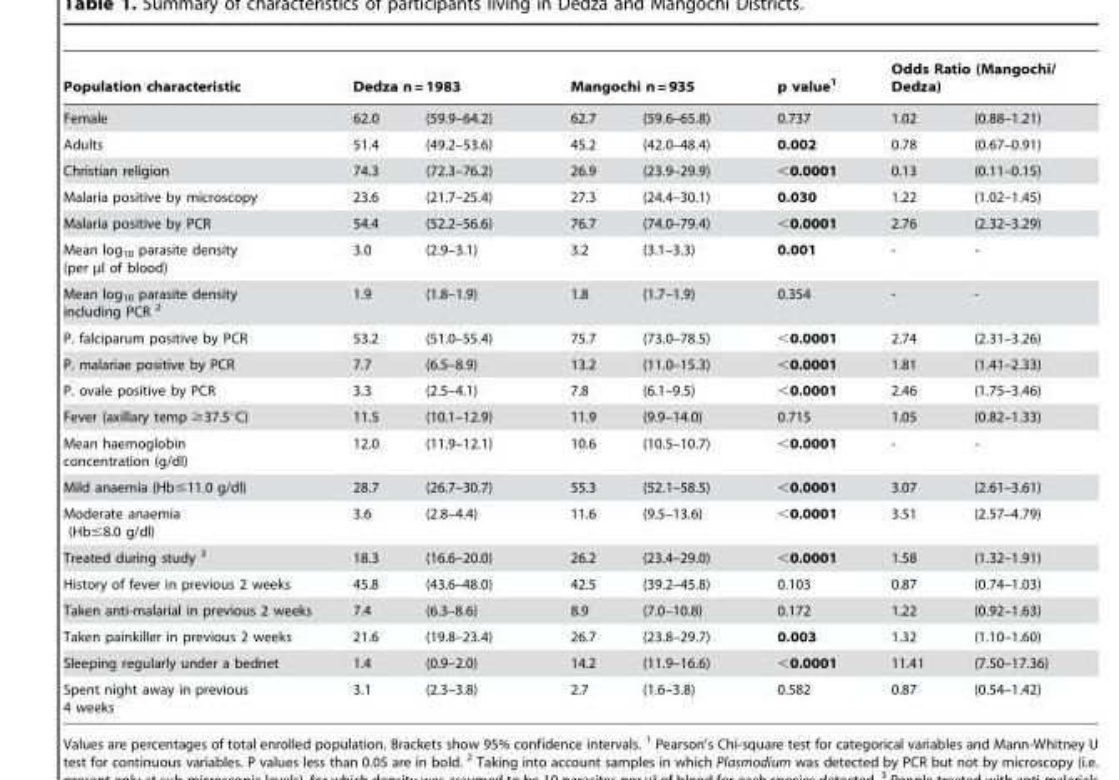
<table><thead><tr><td rowspan="2">Population characteristic Female</td><td colspan="2">Dedza n = 1983</td><td colspan="2">Mangochi n = 935</td><td rowspan="2">p value<sup>1</sup> 0.737</td><td colspan="2">Odds Ratio (Mangochi/ Dedza)</td></tr><tr><td>62.0</td><td>(59.9–64.2)</td><td>62.7</td><td>(59.6–65.8)</td><td>1.02</td><td>(0.88–1.21)</td></tr></thead><tbody><tr><td>Adults</td><td>51.4</td><td>(49.2–53.6)</td><td>45.2</td><td>(42.0–48.4)</td><td>0.002</td><td>0.78</td><td>(0.67–0.91)</td></tr><tr><td>Christian religion</td><td>74.3</td><td>(72.3–76.2)</td><td>26.9</td><td>(23.9–29.9)</td><td>&lt;0.0001</td><td>0.13</td><td>(0.11–0.15)</td></tr><tr><td>Malaria positive by microscopy</td><td>23.6</td><td>(21.7–25.4)</td><td>27.3</td><td>(24.4–30.1)</td><td>0.030</td><td>1.22</td><td>(1.02–1.45)</td></tr><tr><td>Malaria positive by PCR</td><td>54.4</td><td>(52.2–56.6)</td><td>76.7</td><td>(74.0–79.4)</td><td>&lt;0.0001</td><td>2.76</td><td>(2.32–3.29)</td></tr><tr><td>Mean log<sub>10</sub> parasite density (per µl of blood)</td><td>3.0</td><td>(2.9–3.1)</td><td>3.2</td><td>(3.1–3.3)</td><td>0.001</td><td>-</td><td>-</td></tr><tr><td>Mean log<sub>10</sub> parasite density including PCR <sup>2</sup></td><td>1.9</td><td>(1.8–1.9)</td><td>1.8</td><td>(1.7–1.9)</td><td>0.354</td><td>-</td><td>-</td></tr><tr><td>P. falciparum positive by PCR</td><td>53.2</td><td>(51.0–55.4)</td><td>75.7</td><td>(73.0–78.5)</td><td>&lt;0.0001</td><td>2.74</td><td>(2.31–3.26)</td></tr><tr><td>P. malariae positive by PCR</td><td>7.7</td><td>(6.5–8.9)</td><td>13.2</td><td>(11.0–15.3)</td><td>&lt;0.0001</td><td>1.81</td><td>(1.41–2.33)</td></tr><tr><td>P. ovale positive by PCR</td><td>3.3</td><td>(2.5–4.1)</td><td>7.8</td><td>(6.1–9.5)</td><td>&lt;0.0001</td><td>2.46</td><td>(1.75–3.46)</td></tr><tr><td>Fever (axillary temp ≥37.5°C)</td><td>11.5</td><td>(10.1–12.9)</td><td>11.9</td><td>(9.9–14.0)</td><td>0.715</td><td>1.05</td><td>(0.82–1.33)</td></tr><tr><td>Mean haemoglobin concentration (g/dl)</td><td>12.0</td><td>(11.9–12.1)</td><td>10.6</td><td>(10.5–10.7)</td><td>&lt;0.0001</td><td>-</td><td>-</td></tr><tr><td>Mild anaemia (Hb≤11.0 g/dl)</td><td>28.7</td><td>(26.7–30.7)</td><td>55.3</td><td>(52.1–58.5)</td><td>&lt;0.0001</td><td>3.07</td><td>(2.61–3.61)</td></tr><tr><td>Moderate anaemia (Hb≤8.0 g/dl)</td><td>3.6</td><td>(2.8–4.4)</td><td>11.6</td><td>(9.5–13.6)</td><td>&lt;0.0001</td><td>3.51</td><td>(2.57–4.79)</td></tr><tr><td>Treated during study <sup>3</sup></td><td>18.3</td><td>(16.6–20.0)</td><td>26.2</td><td>(23.4–29.0)</td><td>&lt;0.0001</td><td>1.58</td><td>(1.32–1.91)</td></tr><tr><td>History of fever in previous 2 weeks</td><td>45.8</td><td>(43.6–48.0)</td><td>42.5</td><td>(39.2–45.8)</td><td>0.103</td><td>0.87</td><td>(0.74–1.03)</td></tr><tr><td>Taken anti-malarial in previous 2 weeks</td><td>7.4</td><td>(6.3–8.6)</td><td>8.9</td><td>(7.0–10.8)</td><td>0.172</td><td>1.22</td><td>(0.92–1.63)</td></tr><tr><td>Taken painkiller in previous 2 weeks</td><td>21.6</td><td>(19.8–23.4)</td><td>26.7</td><td>(23.8–29.7)</td><td>0.003</td><td>1.32</td><td>(1.10–1.60)</td></tr><tr><td>Sleeping regularly under a bednet</td><td>1.4</td><td>(0.9–2.0)</td><td>14.2</td><td>(11.9–16.6)</td><td>&lt;0.0001</td><td>11.41</td><td>(7.50–17.36)</td></tr><tr><td>Spent night away in previous 4 weeks</td><td>3.1</td><td>(2.3–3.8)</td><td>2.7</td><td>(1.6–3.8)</td><td>0.582</td><td>0.87</td><td>(0.54–1.42)</td></tr></tbody></table>